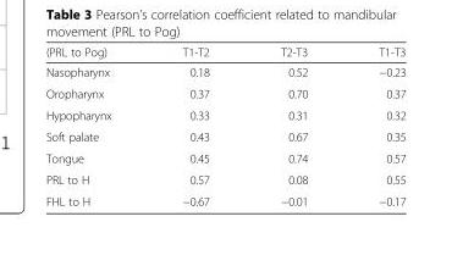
<table><thead><tr><td>(PRL to Pog)</td><td>T1-T2</td><td>T2-T3</td><td>T1-T3</td></tr></thead><tbody><tr><td>Nasopharynx</td><td>0.18</td><td>0.52</td><td>−0.23</td></tr><tr><td>Oropharynx</td><td>0.37</td><td>0.70</td><td>0.37</td></tr><tr><td>Hypopharynx</td><td>0.33</td><td>0.31</td><td>0.32</td></tr><tr><td>Soft palate</td><td>0.43</td><td>0.67</td><td>0.35</td></tr><tr><td>Tongue</td><td>0.45</td><td>0.74</td><td>0.57</td></tr><tr><td>PRL to H</td><td>0.57</td><td>0.08</td><td>0.55</td></tr><tr><td>FHL to H</td><td>−0.67</td><td>−0.01</td><td>−0.17</td></tr></tbody></table>